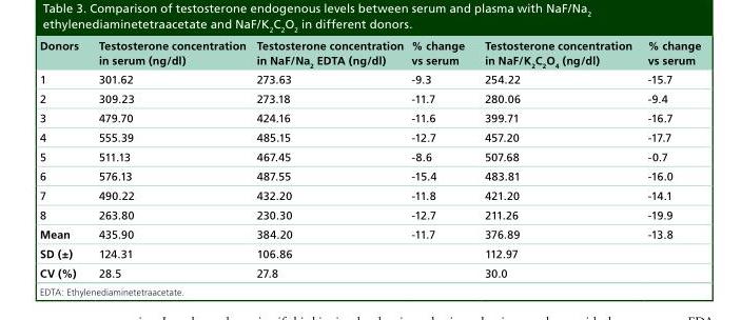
<table><thead><tr><td>Donors</td><td>Testosterone concentration in serum (ng/dl)</td><td>Testosterone concentration in NaF/Na<sub>2</sub> EDTA (ng/dl)</td><td>% change vs serum</td><td>Testosterone concentration in NaF/K<sub>2</sub>C<sub>2</sub>O<sub>4</sub> (ng/dl)</td><td>% change vs serum</td></tr></thead><tbody><tr><td>1</td><td>301.62</td><td>273.63</td><td>-9.3</td><td>254.22</td><td>-15.7</td></tr><tr><td>2</td><td>309.23</td><td>273.18</td><td>-11.7</td><td>280.06</td><td>-9.4</td></tr><tr><td>3</td><td>479.70</td><td>424.16</td><td>-11.6</td><td>399.71</td><td>-16.7</td></tr><tr><td>4</td><td>555.39</td><td>485.15</td><td>-12.7</td><td>457.20</td><td>-17.7</td></tr><tr><td>5</td><td>511.13</td><td>467.45</td><td>-8.6</td><td>507.68</td><td>-0.7</td></tr><tr><td>6</td><td>576.13</td><td>487.55</td><td>-15.4</td><td>483.81</td><td>-16.0</td></tr><tr><td>7</td><td>490.22</td><td>432.20</td><td>-11.8</td><td>421.20</td><td>-14.1</td></tr><tr><td>8</td><td>263.80</td><td>230.30</td><td>-12.7</td><td>211.26</td><td>-19.9</td></tr><tr><td>Mean</td><td>435.90</td><td>384.20</td><td>-11.7</td><td>376.89</td><td>-13.8</td></tr><tr><td>SD (±)</td><td>124.31</td><td>106.86</td><td></td><td>112.97</td><td></td></tr><tr><td>CV (%)</td><td>28.5</td><td>27.8</td><td></td><td>30.0</td><td></td></tr></tbody></table>